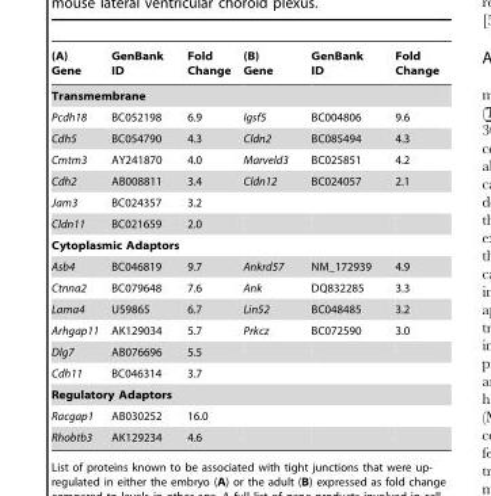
<table><thead><tr><td>(A) Gene</td><td>GenBank ID</td><td>Fold Change</td><td>(B) Gene</td><td>GenBank ID</td><td>Fold Change</td></tr></thead><tbody><tr><td colspan="6">Transmembrane</td></tr><tr><td>Pcdh18</td><td>BC052198</td><td>6.9</td><td>Igsf5</td><td>BC004806</td><td>9.6</td></tr><tr><td>Cdh5</td><td>BC054790</td><td>4.3</td><td>Cldn2</td><td>BC085494</td><td>4.3</td></tr><tr><td>Cmtm3</td><td>AY241870</td><td>4.0</td><td>Marveld3</td><td>BC025851</td><td>4.2</td></tr><tr><td>Cdh2</td><td>AB008811</td><td>3.4</td><td>Cldn12</td><td>BC024057</td><td>2.1</td></tr><tr><td>Jam3</td><td>BC024357</td><td>3.2</td><td></td><td></td><td></td></tr><tr><td>Cldn11</td><td>BC021659</td><td>2.0</td><td></td><td></td><td></td></tr><tr><td colspan="6">Cytoplasmic Adaptors</td></tr><tr><td>Asb4</td><td>BC046819</td><td>9.7</td><td>Ankrd57</td><td>NM_172939</td><td>4.9</td></tr><tr><td>Ctnna2</td><td>BC079648</td><td>7.6</td><td>Ank</td><td>DQ832285</td><td>3.3</td></tr><tr><td>Lama4</td><td>U59865</td><td>6.7</td><td>Lin52</td><td>BC048485</td><td>3.2</td></tr><tr><td>Arhgap11</td><td>AK129034</td><td>5.7</td><td>Prkcz</td><td>BC072590</td><td>3.0</td></tr><tr><td>Dlg7</td><td>AB076696</td><td>5.5</td><td></td><td></td><td></td></tr><tr><td>Cdh11</td><td>BC046314</td><td>3.7</td><td></td><td></td><td></td></tr><tr><td colspan="6">Regulatory Adaptors</td></tr><tr><td>Racgap1</td><td>AB030252</td><td>16.0</td><td></td><td></td><td></td></tr><tr><td>Rhobtb3</td><td>AK129234</td><td>4.6</td><td></td><td></td><td></td></tr></tbody></table>